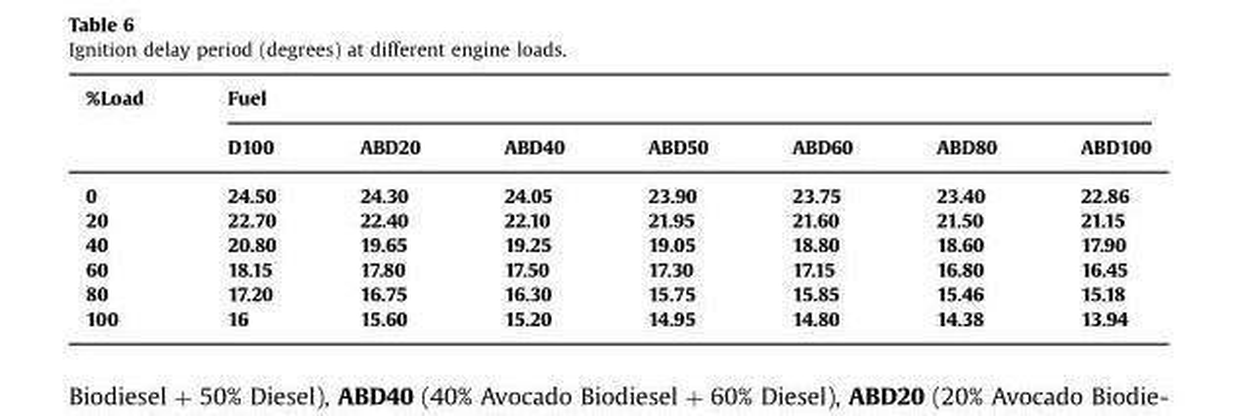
<table><thead><tr><td rowspan="2">%Load</td><td colspan="7">Fuel</td></tr><tr><td>D100</td><td>ABD20</td><td>ABD40</td><td>ABD50</td><td>ABD60</td><td>ABD80</td><td>ABD100</td></tr></thead><tbody><tr><td>0</td><td>24.50</td><td>24.30</td><td>24.05</td><td>23.90</td><td>23.75</td><td>23.40</td><td>22.86</td></tr><tr><td>20</td><td>22.70</td><td>22.40</td><td>22.10</td><td>21.95</td><td>21.60</td><td>21.50</td><td>21.15</td></tr><tr><td>40</td><td>20.80</td><td>19.65</td><td>19.25</td><td>19.05</td><td>18.80</td><td>18.60</td><td>17.90</td></tr><tr><td>60</td><td>18.15</td><td>17.80</td><td>17.50</td><td>17.30</td><td>17.15</td><td>16.80</td><td>16.45</td></tr><tr><td>80</td><td>17.20</td><td>16.75</td><td>16.30</td><td>15.75</td><td>15.85</td><td>15.46</td><td>15.18</td></tr><tr><td>100</td><td>16</td><td>15.60</td><td>15.20</td><td>14.95</td><td>14.80</td><td>14.38</td><td>13.94</td></tr></tbody></table>